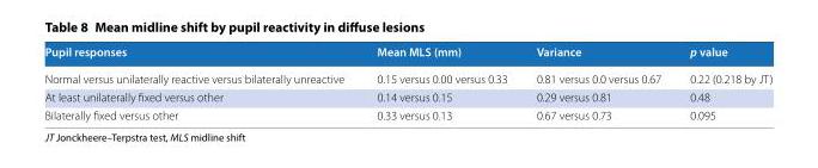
<table><thead><tr><td>Pupil responses</td><td>Mean MLS (mm)</td><td>Variance</td><td>p value</td></tr></thead><tbody><tr><td>Normal versus unilaterally reactive versus bilaterally unreactive</td><td>0.15 versus 0.00 versus 0.33</td><td>0.81 versus 0.0 versus 0.67</td><td>0.22 (0.218 by JT)</td></tr><tr><td>At least unilaterally fixed versus other</td><td>0.14 versus 0.15</td><td>0.29 versus 0.81</td><td>0.48</td></tr><tr><td>Bilaterally fixed versus other</td><td>0.33 versus 0.13</td><td>0.67 versus 0.73</td><td>0.095</td></tr></tbody></table>